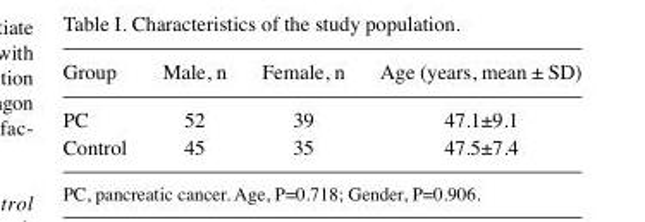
<table><thead><tr><td>Group</td><td>Male, n</td><td>Female, n</td><td>Age (years, mean ± SD)</td></tr></thead><tbody><tr><td>PC</td><td>52</td><td>39</td><td>47.1±9.1</td></tr><tr><td>Control</td><td>45</td><td>35</td><td>47.5±7.4</td></tr></tbody></table>